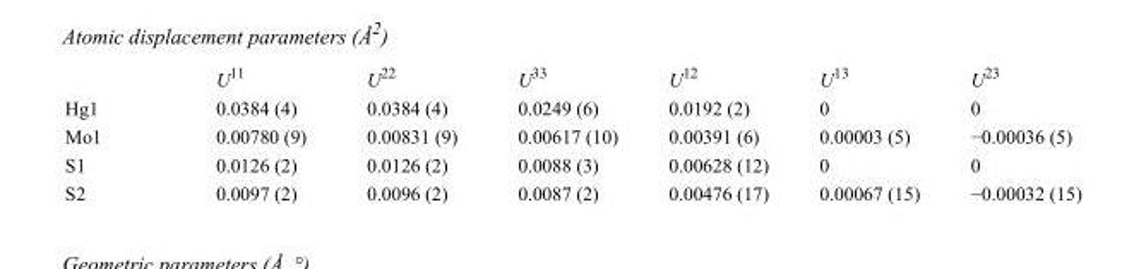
<table><thead><tr><td></td><td>U<sup>11</sup></td><td>U<sup>22</sup></td><td>U<sup>33</sup></td><td>U<sup>12</sup></td><td>U<sup>13</sup></td><td>U<sup>23</sup></td></tr></thead><tbody><tr><td>Hg1</td><td>0.0384 (4)</td><td>0.0384 (4)</td><td>0.0249 (6)</td><td>0.0192 (2)</td><td>0</td><td>0</td></tr><tr><td>Mo1</td><td>0.00780 (9)</td><td>0.00831 (9)</td><td>0.00617 (10)</td><td>0.00391 (6)</td><td>0.00003 (5)</td><td>−0.00036 (5)</td></tr><tr><td>S1</td><td>0.0126 (2)</td><td>0.0126 (2)</td><td>0.0088 (3)</td><td>0.00628 (12)</td><td>0</td><td>0</td></tr><tr><td>S2</td><td>0.0097 (2)</td><td>0.0096 (2)</td><td>0.0087 (2)</td><td>0.00476 (17)</td><td>0.00067 (15)</td><td>−0.00032 (15)</td></tr></tbody></table>